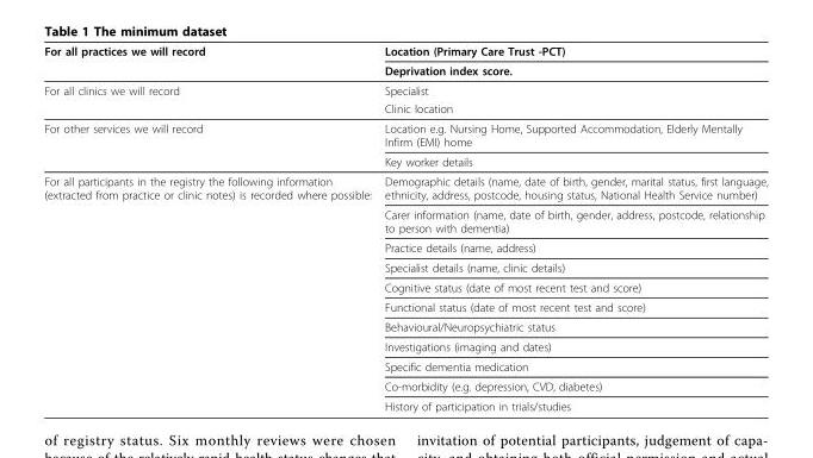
<table><thead><tr><td rowspan="2">For all practices we will record</td><td rowspan="2">Location (Primary Care Trust -PCT) Deprivation index score.</td></tr><tr></tr></thead><tbody><tr><td rowspan="2">For all clinics we will record</td><td>Specialist</td></tr><tr><td>Clinic location</td></tr><tr><td rowspan="2">For other services we will record</td><td>Location e.g. Nursing Home, Supported Accommodation, Elderly Mentally Infirm (EMI) home</td></tr><tr><td>Key worker details</td></tr><tr><td rowspan="11">For all participants in the registry the following information (extracted from practice or clinic notes) is recorded where possible:</td><td>Demographic details (name, date of birth, gender, marital status, first language, ethnicity, address, postcode, housing status, National Health Service number)</td></tr><tr><td>Carer information (name, date of birth, gender, address, postcode, relationship to person with dementia)</td></tr><tr><td>Practice details (name, address)</td></tr><tr><td>Specialist details (name, clinic details)</td></tr><tr><td>Cognitive status (date of most recent test and score)</td></tr><tr><td>Functional status (date of most recent test and score)</td></tr><tr><td>Behavioural/Neuropsychiatric status</td></tr><tr><td>Investigations (imaging and dates)</td></tr><tr><td>Specific dementia medication</td></tr><tr><td>Co-morbidity (e.g. depression, CVD, diabetes)</td></tr><tr><td>History of participation in trials/studies</td></tr></tbody></table>